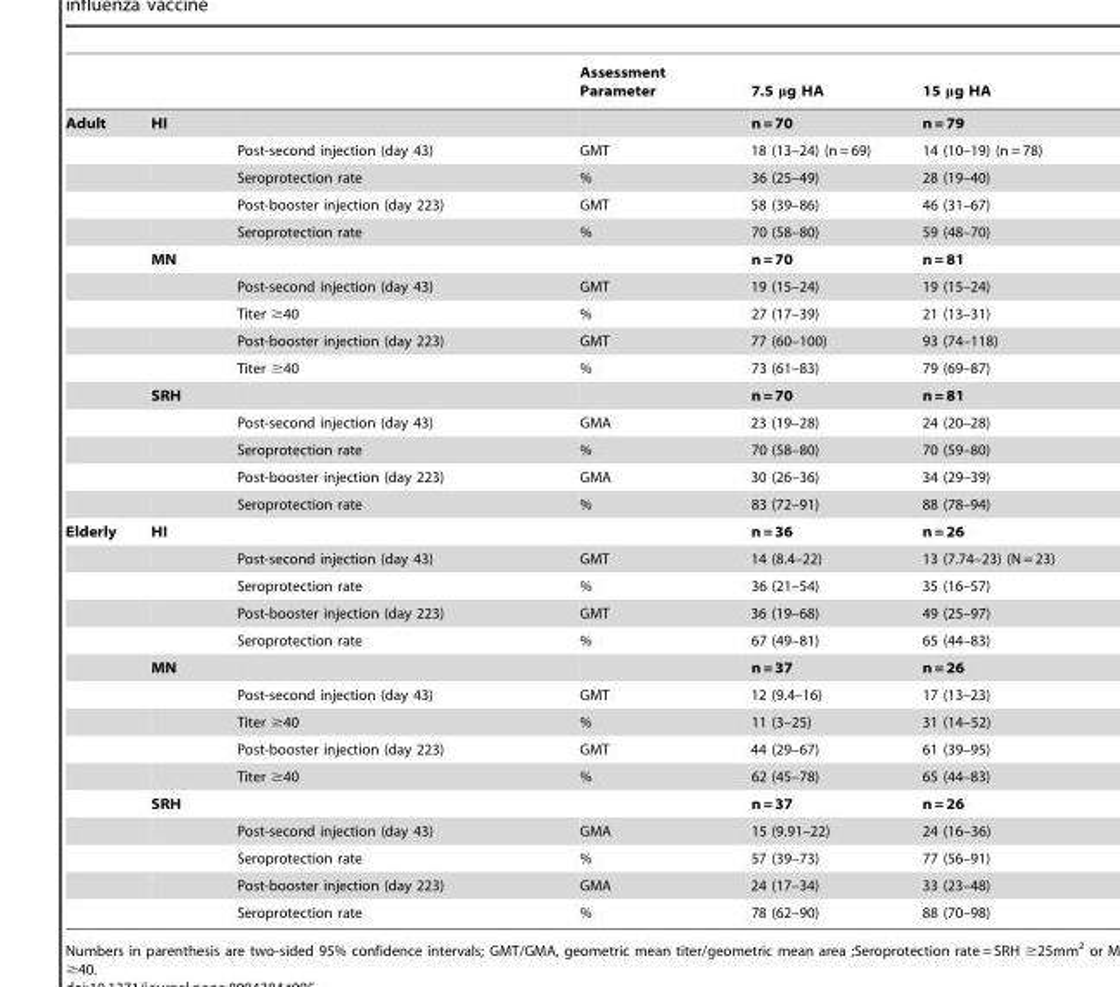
<table><thead><tr><td></td><td></td><td></td><td>Assessment Parameter</td><td>7.5 μg HA</td><td>15 μg HA</td></tr></thead><tbody><tr><td rowspan="15">Adult</td><td>HI</td><td></td><td></td><td>n = 70</td><td>n = 79</td></tr><tr><td></td><td>Post-second injection (day 43)</td><td>GMT</td><td>18 (13–24) (n = 69)</td><td>14 (10–19) (n = 78)</td></tr><tr><td></td><td>Seroprotection rate</td><td>%</td><td>36 (25–49)</td><td>28 (19–40)</td></tr><tr><td></td><td>Post-booster injection (day 223)</td><td>GMT</td><td>58 (39–86)</td><td>46 (31–67)</td></tr><tr><td></td><td>Seroprotection rate</td><td>%</td><td>70 (58–80)</td><td>59 (48–70)</td></tr><tr><td>MN</td><td></td><td></td><td>n = 70</td><td>n = 81</td></tr><tr><td></td><td>Post-second injection (day 43)</td><td>GMT</td><td>19 (15–24)</td><td>19 (15–24)</td></tr><tr><td></td><td>Titer ≥40</td><td>%</td><td>27 (17–39)</td><td>21 (13–31)</td></tr><tr><td></td><td>Post-booster injection (day 223)</td><td>GMT</td><td>77 (60–100)</td><td>93 (74–118)</td></tr><tr><td></td><td>Titer ≥40</td><td>%</td><td>73 (61–83)</td><td>79 (69–87)</td></tr><tr><td>SRH</td><td></td><td></td><td>n = 70</td><td>n = 81</td></tr><tr><td></td><td>Post-second injection (day 43)</td><td>GMA</td><td>23 (19–28)</td><td>24 (20–28)</td></tr><tr><td></td><td>Seroprotection rate</td><td>%</td><td>70 (58–80)</td><td>70 (59–80)</td></tr><tr><td></td><td>Post-booster injection (day 223)</td><td>GMA</td><td>30 (26–36)</td><td>34 (29–39)</td></tr><tr><td></td><td>Seroprotection rate</td><td>%</td><td>83 (72–91)</td><td>88 (78–94)</td></tr><tr><td rowspan="15">Elderly</td><td>HI</td><td></td><td></td><td>n = 36</td><td>n = 26</td></tr><tr><td></td><td>Post-second injection (day 43)</td><td>GMT</td><td>14 (8.4–22)</td><td>13 (7.74–23) (N = 23)</td></tr><tr><td></td><td>Seroprotection rate</td><td>%</td><td>36 (21–54)</td><td>35 (16–57)</td></tr><tr><td></td><td>Post-booster injection (day 223)</td><td>GMT</td><td>36 (19–68)</td><td>49 (25–97)</td></tr><tr><td></td><td>Seroprotection rate</td><td>%</td><td>67 (49–81)</td><td>65 (44–83)</td></tr><tr><td>MN</td><td></td><td></td><td>n = 37</td><td>n = 26</td></tr><tr><td></td><td>Post-second injection (day 43)</td><td>GMT</td><td>12 (9.4–16)</td><td>17 (13–23)</td></tr><tr><td></td><td>Titer ≥40</td><td>%</td><td>11 (3–25)</td><td>31 (14–52)</td></tr><tr><td></td><td>Post-booster injection (day 223)</td><td>GMT</td><td>44 (29–67)</td><td>61 (39–95)</td></tr><tr><td></td><td>Titer ≥40</td><td>%</td><td>62 (45–78)</td><td>65 (44–83)</td></tr><tr><td>SRH</td><td></td><td></td><td>n = 37</td><td>n = 26</td></tr><tr><td></td><td>Post-second injection (day 43)</td><td>GMA</td><td>15 (9.91–22)</td><td>24 (16–36)</td></tr><tr><td></td><td>Seroprotection rate</td><td>%</td><td>57 (39–73)</td><td>77 (56–91)</td></tr><tr><td></td><td>Post-booster injection (day 223)</td><td>GMA</td><td>24 (17–34)</td><td>33 (23–48)</td></tr><tr><td></td><td>Seroprotection rate</td><td>%</td><td>78 (62–90)</td><td>88 (70–98)</td></tr></tbody></table>